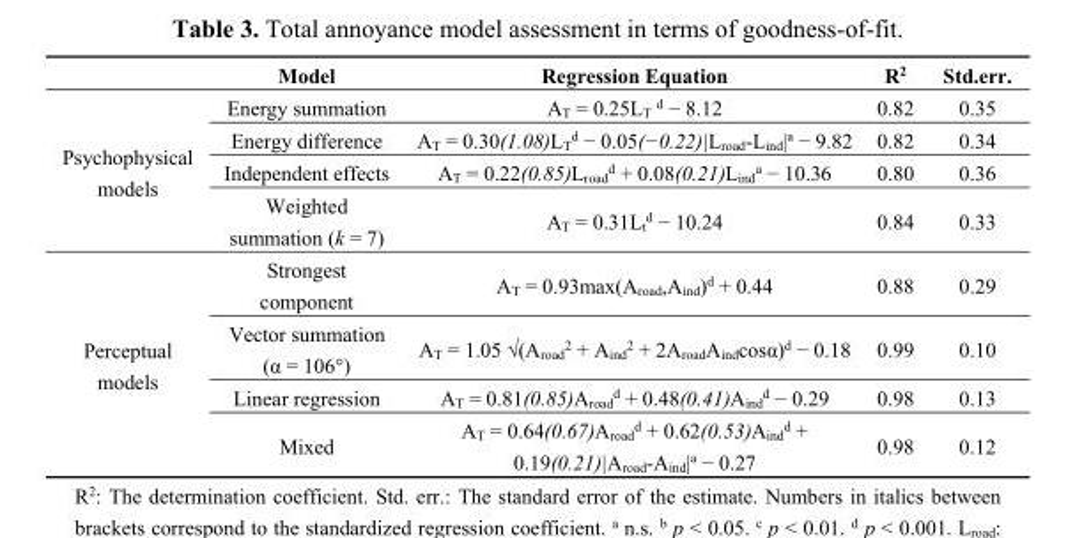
<table><thead><tr><td></td><td>Model</td><td>Regression Equation</td><td>R<sup>2</sup></td><td>Std.err.</td></tr></thead><tbody><tr><td rowspan="4">Psychophysical models</td><td>Energy summation</td><td>A<sub>T</sub> = 0.25L<sub>T</sub> <sup>d</sup> − 8.12</td><td>0.82</td><td>0.35</td></tr><tr><td>Energy difference</td><td>A<sub>T</sub> = 0.30(1.08)L<sub>T</sub><sup>d</sup> − 0.05(−0.22)|L<sub>road</sub>-L<sub>ind</sub>|<sup>a</sup> − 9.82</td><td>0.82</td><td>0.34</td></tr><tr><td>Independent effects</td><td>A<sub>T</sub> = 0.22(0.85)L<sub>road</sub><sup>d</sup> + 0.08(0.21)L<sub>ind</sub><sup>a</sup> − 10.36</td><td>0.80</td><td>0.36</td></tr><tr><td>Weighted summation (k = 7)</td><td>A<sub>T</sub> = 0.31L<sub>t</sub><sup>d</sup> − 10.24</td><td>0.84</td><td>0.33</td></tr><tr><td rowspan="4">Perceptual models</td><td>Strongest component</td><td>A<sub>T</sub> = 0.93max(A<sub>road</sub>,A<sub>ind</sub>)<sup>d</sup> + 0.44</td><td>0.88</td><td>0.29</td></tr><tr><td>Vector summation (α = 106°)</td><td>A<sub>T</sub> = 1.05 √(A<sub>road</sub><sup>2</sup> + A<sub>ind</sub><sup>2</sup> + 2A<sub>road</sub>A<sub>ind</sub>cosα)<sup>d</sup> − 0.18</td><td>0.99</td><td>0.10</td></tr><tr><td>Linear regression</td><td>A<sub>T</sub> = 0.81(0.85)A<sub>road</sub><sup>d</sup> + 0.48(0.41)A<sub>ind</sub><sup>d</sup> − 0.29</td><td>0.98</td><td>0.13</td></tr><tr><td>Mixed</td><td>A<sub>T</sub> = 0.64(0.67)A<sub>road</sub><sup>d</sup> + 0.62(0.53)A<sub>ind</sub><sup>d</sup> + 0.19(0.21)|A<sub>road</sub>-A<sub>ind</sub>|<sup>a</sup> − 0.27</td><td>0.98</td><td>0.12</td></tr></tbody></table>